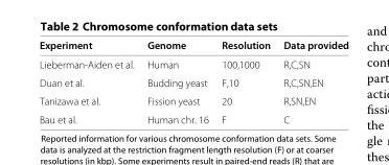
<table><thead><tr><td>Experiment</td><td>Genome</td><td>Resolution</td><td>Data provided</td></tr></thead><tbody><tr><td>Lieberman-Aiden et al.</td><td>Human</td><td>100,1000</td><td>R,C,SN</td></tr><tr><td>Duan et al.</td><td>Budding yeast</td><td>F,10</td><td>R,C,SN,EN</td></tr><tr><td>Tanizawa et al.</td><td>Fission yeast</td><td>20</td><td>R,SN,EN</td></tr><tr><td>Bau et al.</td><td>Human chr. 16</td><td>F</td><td>C</td></tr></tbody></table>